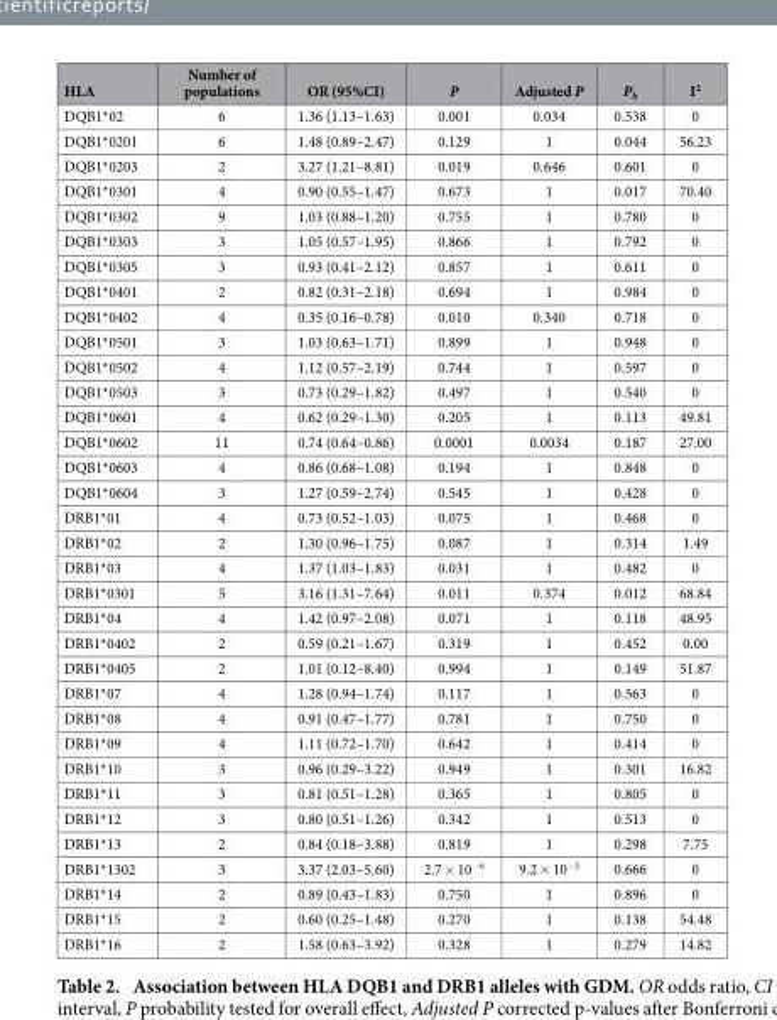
<table><thead><tr><td>HLA</td><td>Number of populations</td><td>OR (95%CI)</td><td>P</td><td>Adjusted P</td><td>P<sub>h</sub></td><td>I<sup>2</sup></td></tr></thead><tbody><tr><td>DQB1*02</td><td>6</td><td>1.36 (1.13–1.63)</td><td>0.001</td><td>0.034</td><td>0.538</td><td>0</td></tr><tr><td>DQB1*0201</td><td>6</td><td>1.48 (0.89–2.47)</td><td>0.129</td><td>1</td><td>0.044</td><td>56.23</td></tr><tr><td>DQB1*0203</td><td>2</td><td>3.27 (1.21–8.81)</td><td>0.019</td><td>0.646</td><td>0.601</td><td>0</td></tr><tr><td>DQB1*0301</td><td>4</td><td>0.90 (0.55–1.47)</td><td>0.673</td><td>1</td><td>0.017</td><td>70.40</td></tr><tr><td>DQB1*0302</td><td>9</td><td>1.03 (0.88–1.20)</td><td>0.755</td><td>1</td><td>0.780</td><td>0</td></tr><tr><td>DQB1*0303</td><td>3</td><td>1.05 (0.57–1.95)</td><td>0.866</td><td>1</td><td>0.792</td><td>0</td></tr><tr><td>DQB1*0305</td><td>3</td><td>0.93 (0.41–2.12)</td><td>0.857</td><td>1</td><td>0.611</td><td>0</td></tr><tr><td>DQB1*0401</td><td>2</td><td>0.82 (0.31–2.18)</td><td>0.694</td><td>1</td><td>0.984</td><td>0</td></tr><tr><td>DQB1*0402</td><td>4</td><td>0.35 (0.16–0.78)</td><td>0.010</td><td>0.340</td><td>0.718</td><td>0</td></tr><tr><td>DQB1*0501</td><td>3</td><td>1.03 (0.63–1.71)</td><td>0.899</td><td>1</td><td>0.948</td><td>0</td></tr><tr><td>DQB1*0502</td><td>4</td><td>1.12 (0.57–2.19)</td><td>0.744</td><td>1</td><td>0.597</td><td>0</td></tr><tr><td>DQB1*0503</td><td>3</td><td>0.73 (0.29–1.82)</td><td>0.497</td><td>1</td><td>0.540</td><td>0</td></tr><tr><td>DQB1*0601</td><td>4</td><td>0.62 (0.29–1.30)</td><td>0.205</td><td>1</td><td>0.113</td><td>49.81</td></tr><tr><td>DQB1*0602</td><td>11</td><td>0.74 (0.64–0.86)</td><td>0.0001</td><td>0.0034</td><td>0.187</td><td>27.00</td></tr><tr><td>DQB1*0603</td><td>4</td><td>0.86 (0.68–1.08)</td><td>0.194</td><td>1</td><td>0.848</td><td>0</td></tr><tr><td>DQB1*0604</td><td>3</td><td>1.27 (0.59–2.74)</td><td>0.545</td><td>1</td><td>0.428</td><td>0</td></tr><tr><td>DRB1*01</td><td>4</td><td>0.73 (0.52–1.03)</td><td>0.075</td><td>1</td><td>0.468</td><td>0</td></tr><tr><td>DRB1*02</td><td>2</td><td>1.30 (0.96–1.75)</td><td>0.087</td><td>1</td><td>0.314</td><td>1.49</td></tr><tr><td>DRB1*03</td><td>4</td><td>1.37 (1.03–1.83)</td><td>0.031</td><td>1</td><td>0.482</td><td>0</td></tr><tr><td>DRB1*0301</td><td>5</td><td>3.16 (1.31–7.64)</td><td>0.011</td><td>0.374</td><td>0.012</td><td>68.84</td></tr><tr><td>DRB1*04</td><td>4</td><td>1.42 (0.97–2.08)</td><td>0.071</td><td>1</td><td>0.118</td><td>48.95</td></tr><tr><td>DRB1*0402</td><td>2</td><td>0.59 (0.21–1.67)</td><td>0.319</td><td>1</td><td>0.452</td><td>0.00</td></tr><tr><td>DRB1*0405</td><td>2</td><td>1.01 (0.12–8.40)</td><td>0.994</td><td>1</td><td>0.149</td><td>51.87</td></tr><tr><td>DRB1*07</td><td>4</td><td>1.28 (0.94–1.74)</td><td>0.117</td><td>1</td><td>0.563</td><td>0</td></tr><tr><td>DRB1*08</td><td>4</td><td>0.91 (0.47–1.77)</td><td>0.781</td><td>1</td><td>0.750</td><td>0</td></tr><tr><td>DRB1*09</td><td>4</td><td>1.11 (0.72–1.70)</td><td>0.642</td><td>1</td><td>0.414</td><td>0</td></tr><tr><td>DRB1*10</td><td>3</td><td>0.96 (0.29–3.22)</td><td>0.949</td><td>1</td><td>0.301</td><td>16.82</td></tr><tr><td>DRB1*11</td><td>3</td><td>0.81 (0.51–1.28)</td><td>0.365</td><td>1</td><td>0.805</td><td>0</td></tr><tr><td>DRB1*12</td><td>3</td><td>0.80 (0.51–1.26)</td><td>0.342</td><td>1</td><td>0.513</td><td>0</td></tr><tr><td>DRB1*13</td><td>2</td><td>0.84 (0.18–3.88)</td><td>0.819</td><td>1</td><td>0.298</td><td>7.75</td></tr><tr><td>DRB1*1302</td><td>3</td><td>3.37 (2.03–5.60)</td><td>2.7 × 10<sup>−6</sup></td><td>9.2 × 10<sup>−5</sup></td><td>0.666</td><td>0</td></tr><tr><td>DRB1*14</td><td>2</td><td>0.89 (0.43–1.83)</td><td>0.750</td><td>1</td><td>0.896</td><td>0</td></tr><tr><td>DRB1*15</td><td>2</td><td>0.60 (0.25–1.48)</td><td>0.270</td><td>1</td><td>0.138</td><td>54.48</td></tr><tr><td>DRB1*16</td><td>2</td><td>1.58 (0.63–3.92)</td><td>0.328</td><td>1</td><td>0.279</td><td>14.82</td></tr></tbody></table>